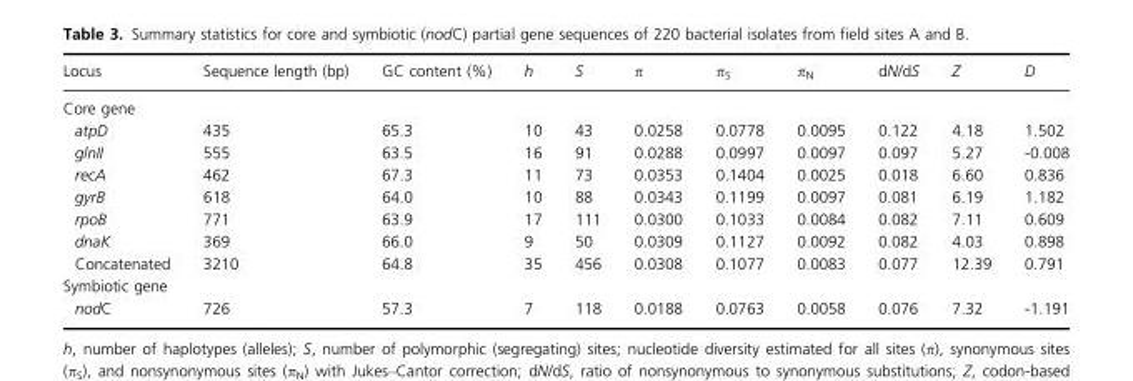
<table><thead><tr><td>Locus</td><td>Sequence length (bp)</td><td>GC content (%)</td><td>h</td><td>S</td><td>π</td><td>π<sub>S</sub></td><td>π<sub>N</sub></td><td>dN/dS</td><td>Z</td><td>D</td></tr></thead><tbody><tr><td colspan="11">Core gene</td></tr><tr><td>atpD</td><td>435</td><td>65.3</td><td>10</td><td>43</td><td>0.0258</td><td>0.0778</td><td>0.0095</td><td>0.122</td><td>4.18</td><td>1.502</td></tr><tr><td>glnII</td><td>555</td><td>63.5</td><td>16</td><td>91</td><td>0.0288</td><td>0.0997</td><td>0.0097</td><td>0.097</td><td>5.27</td><td>-0.008</td></tr><tr><td>recA</td><td>462</td><td>67.3</td><td>11</td><td>73</td><td>0.0353</td><td>0.1404</td><td>0.0025</td><td>0.018</td><td>6.60</td><td>0.836</td></tr><tr><td>gyrB</td><td>618</td><td>64.0</td><td>10</td><td>88</td><td>0.0343</td><td>0.1199</td><td>0.0097</td><td>0.081</td><td>6.19</td><td>1.182</td></tr><tr><td>rpoB</td><td>771</td><td>63.9</td><td>17</td><td>111</td><td>0.0300</td><td>0.1033</td><td>0.0084</td><td>0.082</td><td>7.11</td><td>0.609</td></tr><tr><td>dnaK</td><td>369</td><td>66.0</td><td>9</td><td>50</td><td>0.0309</td><td>0.1127</td><td>0.0092</td><td>0.082</td><td>4.03</td><td>0.898</td></tr><tr><td>Concatenated</td><td>3210</td><td>64.8</td><td>35</td><td>456</td><td>0.0308</td><td>0.1077</td><td>0.0083</td><td>0.077</td><td>12.39</td><td>0.791</td></tr><tr><td colspan="11">Symbiotic gene</td></tr><tr><td>nodC</td><td>726</td><td>57.3</td><td>7</td><td>118</td><td>0.0188</td><td>0.0763</td><td>0.0058</td><td>0.076</td><td>7.32</td><td>-1.191</td></tr></tbody></table>